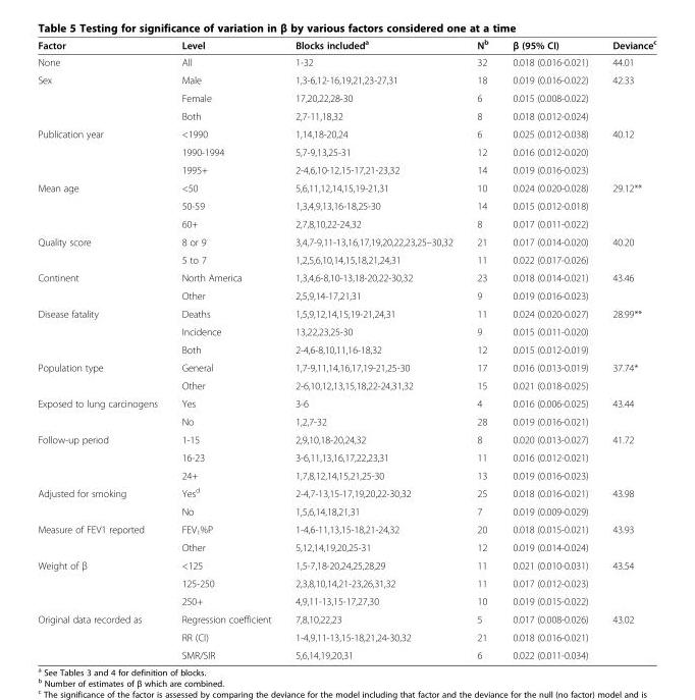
<table><thead><tr><td>Factor</td><td>Level</td><td>Blocks included<sup>a</sup></td><td>N<sup>b</sup></td><td>β (95% CI)</td><td>Deviance<sup>c</sup></td></tr></thead><tbody><tr><td>None</td><td>All</td><td>1-32</td><td>32</td><td>0.018 (0.016-0.021)</td><td>44.01</td></tr><tr><td rowspan="3">Sex</td><td>Male</td><td>1,3-6,12-16,19,21,23-27,31</td><td>18</td><td>0.019 (0.016-0.022)</td><td>42.33</td></tr><tr><td>Female</td><td>17,20,22,28-30</td><td>6</td><td>0.015 (0.008-0.022)</td><td></td></tr><tr><td>Both</td><td>2,7-11,18,32</td><td>8</td><td>0.018 (0.012-0.024)</td><td></td></tr><tr><td rowspan="3">Publication year</td><td>&lt;1990</td><td>1,14,18-20,24</td><td>6</td><td>0.025 (0.012-0.038)</td><td>40.12</td></tr><tr><td>1990-1994</td><td>5,7-9,13,25-31</td><td>12</td><td>0.016 (0.012-0.020)</td><td></td></tr><tr><td>1995+</td><td>2-4,6,10-12,15-17,21-23,32</td><td>14</td><td>0.019 (0.016-0.023)</td><td></td></tr><tr><td rowspan="3">Mean age</td><td>&lt;50</td><td>5,6,11,12,14,15,19-21,31</td><td>10</td><td>0.024 (0.020-0.028)</td><td>29.12**</td></tr><tr><td>50-59</td><td>1,3,4,9,13,16-18,25-30</td><td>14</td><td>0.015 (0.012-0.018)</td><td></td></tr><tr><td>60+</td><td>2,7,8,10,22-24,32</td><td>8</td><td>0.017 (0.011-0.022)</td><td></td></tr><tr><td rowspan="2">Quality score</td><td>8 or 9</td><td>3,4,7-9,11-13,16,17,19,20,22,23,25–30,32</td><td>21</td><td>0.017 (0.014-0.020)</td><td>40.20</td></tr><tr><td>5 to 7</td><td>1,2,5,6,10,14,15,18,21,24,31</td><td>11</td><td>0.022 (0.017-0.026)</td><td></td></tr><tr><td rowspan="2">Continent</td><td>North America</td><td>1,3,4,6-8,10-13,18-20,22-30,32</td><td>23</td><td>0.018 (0.014-0.021)</td><td>43.46</td></tr><tr><td>Other</td><td>2,5,9,14-17,21,31</td><td>9</td><td>0.019 (0.016-0.023)</td><td></td></tr><tr><td rowspan="3">Disease fatality</td><td>Deaths</td><td>1,5,9,12,14,15,19-21,24,31</td><td>11</td><td>0.024 (0.020-0.027)</td><td>28.99**</td></tr><tr><td>Incidence</td><td>13,22,23,25-30</td><td>9</td><td>0.015 (0.011-0.020)</td><td></td></tr><tr><td>Both</td><td>2-4,6-8,10,11,16-18,32</td><td>12</td><td>0.015 (0.012-0.019)</td><td></td></tr><tr><td rowspan="2">Population type</td><td>General</td><td>1,7-9,11,14,16,17,19-21,25-30</td><td>17</td><td>0.016 (0.013-0.019)</td><td>37.74*</td></tr><tr><td>Other</td><td>2-6,10,12,13,15,18,22-24,31,32</td><td>15</td><td>0.021 (0.018-0.025)</td><td></td></tr><tr><td rowspan="2">Exposed to lung carcinogens</td><td>Yes</td><td>3-6</td><td>4</td><td>0.016 (0.006-0.025)</td><td>43.44</td></tr><tr><td>No</td><td>1,2,7-32</td><td>28</td><td>0.019 (0.016-0.021)</td><td></td></tr><tr><td rowspan="3">Follow-up period</td><td>1-15</td><td>2,9,10,18-20,24,32</td><td>8</td><td>0.020 (0.013-0.027)</td><td>41.72</td></tr><tr><td>16-23</td><td>3-6,11,13,16,17,22,23,31</td><td>11</td><td>0.016 (0.012-0.021)</td><td></td></tr><tr><td>24+</td><td>1,7,8,12,14,15,21,25-30</td><td>13</td><td>0.019 (0.016-0.023)</td><td></td></tr><tr><td rowspan="2">Adjusted for smoking</td><td>Yes<sup>d</sup></td><td>2-4,7-13,15-17,19,20,22-30,32</td><td>25</td><td>0.018 (0.016-0.021)</td><td>43.98</td></tr><tr><td>No</td><td>1,5,6,14,18,21,31</td><td>7</td><td>0.019 (0.009-0.029)</td><td></td></tr><tr><td rowspan="2">Measure of FEV1 reported</td><td>FEV<sub>1</sub>%P</td><td>1-4,6-11,13,15-18,21-24,32</td><td>20</td><td>0.018 (0.015-0.021)</td><td>43.93</td></tr><tr><td>Other</td><td>5,12,14,19,20,25-31</td><td>12</td><td>0.019 (0.014-0.024)</td><td></td></tr><tr><td rowspan="3">Weight of β</td><td>&lt;125</td><td>1,5-7,18-20,24,25,28,29</td><td>11</td><td>0.021 (0.010-0.031)</td><td>43.54</td></tr><tr><td>125-250</td><td>2,3,8,10,14,21-23,26,31,32</td><td>11</td><td>0.017 (0.012-0.023)</td><td></td></tr><tr><td>250+</td><td>4,9,11-13,15-17,27,30</td><td>10</td><td>0.019 (0.015-0.022)</td><td></td></tr><tr><td rowspan="3">Original data recorded as</td><td>Regression coefficient</td><td>7,8,10,22,23</td><td>5</td><td>0.017 (0.008-0.026)</td><td>43.02</td></tr><tr><td>RR (CI)</td><td>1-4,9,11-13,15-18,21,24-30,32</td><td>21</td><td>0.018 (0.016-0.021)</td><td></td></tr><tr><td>SMR/SIR</td><td>5,6,14,19,20,31</td><td>6</td><td>0.022 (0.011-0.034)</td><td></td></tr></tbody></table>